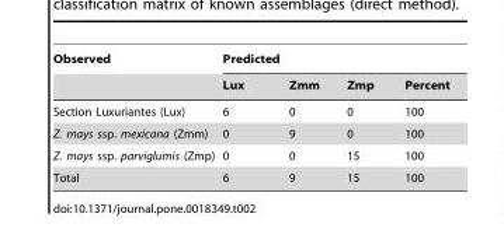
<table><thead><tr><td rowspan="2">Observed</td><td colspan="4">Predicted</td></tr><tr><td>Lux</td><td>Zmm</td><td>Zmp</td><td>Percent</td></tr></thead><tbody><tr><td>Section Luxuriantes (Lux)</td><td>6</td><td>0</td><td>0</td><td>100</td></tr><tr><td>Z. mays ssp. mexicana (Zmm)</td><td>0</td><td>9</td><td>0</td><td>100</td></tr><tr><td>Z. mays ssp. parviglumis (Zmp)</td><td>0</td><td>0</td><td>15</td><td>100</td></tr><tr><td>Total</td><td>6</td><td>9</td><td>15</td><td>100</td></tr></tbody></table>